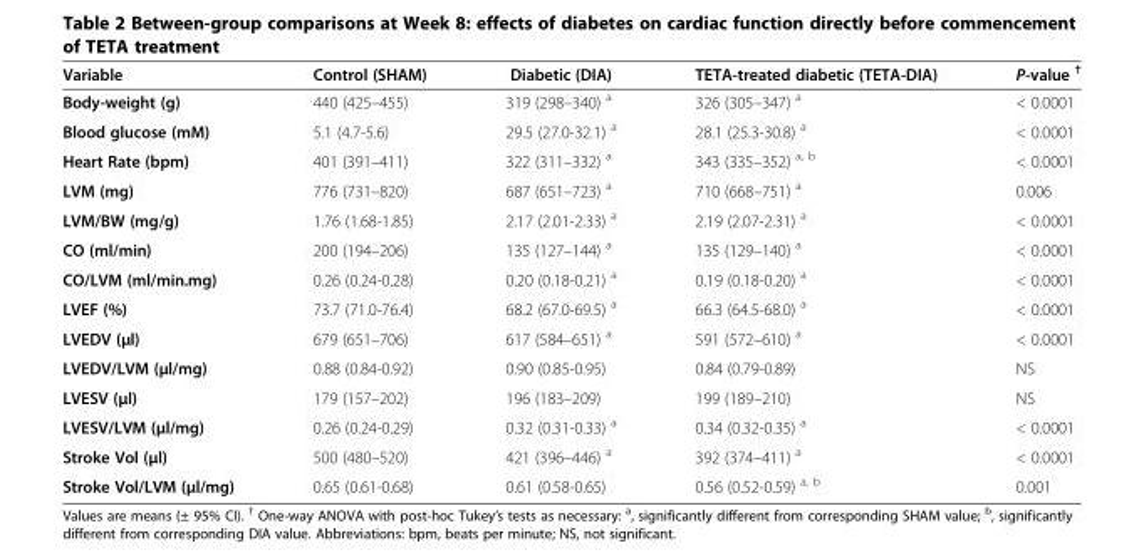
<table><thead><tr><td>Variable</td><td>Control (SHAM)</td><td>Diabetic (DIA)</td><td>TETA-treated diabetic (TETA-DIA)</td><td>P-value <sup>†</sup></td></tr></thead><tbody><tr><td>Body-weight (g)</td><td>440 (425–455)</td><td>319 (298–340) <sup>a</sup></td><td>326 (305–347) <sup>a</sup></td><td>&lt; 0.0001</td></tr><tr><td>Blood glucose (mM)</td><td>5.1 (4.7-5.6)</td><td>29.5 (27.0-32.1) <sup>a</sup></td><td>28.1 (25.3-30.8) <sup>a</sup></td><td>&lt; 0.0001</td></tr><tr><td>Heart Rate (bpm)</td><td>401 (391–411)</td><td>322 (311–332) <sup>a</sup></td><td>343 (335–352) <sup>a, b</sup></td><td>&lt; 0.0001</td></tr><tr><td>LVM (mg)</td><td>776 (731–820)</td><td>687 (651–723) <sup>a</sup></td><td>710 (668–751) <sup>a</sup></td><td>0.006</td></tr><tr><td>LVM/BW (mg/g)</td><td>1.76 (1.68-1.85)</td><td>2.17 (2.01-2.33) <sup>a</sup></td><td>2.19 (2.07-2.31) <sup>a</sup></td><td>&lt; 0.0001</td></tr><tr><td>CO (ml/min)</td><td>200 (194–206)</td><td>135 (127–144) <sup>a</sup></td><td>135 (129–140) <sup>a</sup></td><td>&lt; 0.0001</td></tr><tr><td>CO/LVM (ml/min.mg)</td><td>0.26 (0.24-0.28)</td><td>0.20 (0.18-0.21) <sup>a</sup></td><td>0.19 (0.18-0.20) <sup>a</sup></td><td>&lt; 0.0001</td></tr><tr><td>LVEF (%)</td><td>73.7 (71.0-76.4)</td><td>68.2 (67.0-69.5) <sup>a</sup></td><td>66.3 (64.5-68.0) <sup>a</sup></td><td>&lt; 0.0001</td></tr><tr><td>LVEDV (μl)</td><td>679 (651–706)</td><td>617 (584–651) <sup>a</sup></td><td>591 (572–610) <sup>a</sup></td><td>&lt; 0.0001</td></tr><tr><td>LVEDV/LVM (μl/mg)</td><td>0.88 (0.84-0.92)</td><td>0.90 (0.85-0.95)</td><td>0.84 (0.79-0.89)</td><td>NS</td></tr><tr><td>LVESV (μl)</td><td>179 (157–202)</td><td>196 (183–209)</td><td>199 (189–210)</td><td>NS</td></tr><tr><td>LVESV/LVM (μl/mg)</td><td>0.26 (0.24-0.29)</td><td>0.32 (0.31-0.33) <sup>a</sup></td><td>0.34 (0.32-0.35) <sup>a</sup></td><td>&lt; 0.0001</td></tr><tr><td>Stroke Vol (μl)</td><td>500 (480–520)</td><td>421 (396–446) <sup>a</sup></td><td>392 (374–411) <sup>a</sup></td><td>&lt; 0.0001</td></tr><tr><td>Stroke Vol/LVM (μl/mg)</td><td>0.65 (0.61-0.68)</td><td>0.61 (0.58-0.65)</td><td>0.56 (0.52-0.59) <sup>a, b</sup></td><td>0.001</td></tr></tbody></table>